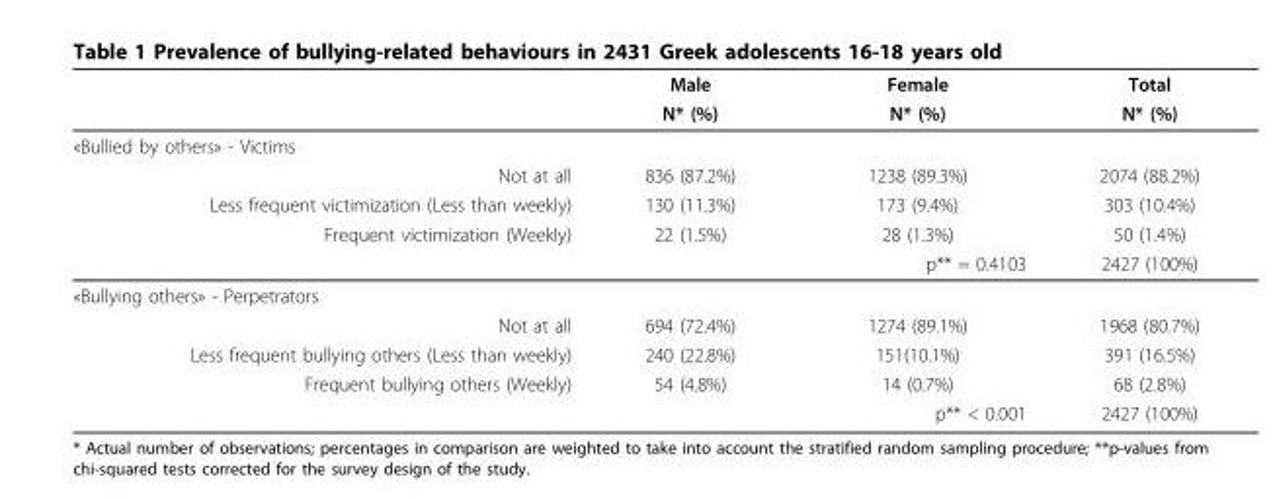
<table><thead><tr><td rowspan="2"></td><td rowspan="2">Male N* (%)</td><td rowspan="2">Female N* (%)</td><td rowspan="2">Total N* (%)</td></tr><tr></tr></thead><tbody><tr><td colspan="4">«Bullied by others» - Victims</td></tr><tr><td>Not at all</td><td>836 (87.2%)</td><td>1238 (89.3%)</td><td>2074 (88.2%)</td></tr><tr><td>Less frequent victimization (Less than weekly)</td><td>130 (11.3%)</td><td>173 (9.4%)</td><td>303 (10.4%)</td></tr><tr><td>Frequent victimization (Weekly)</td><td>22 (1.5%)</td><td>28 (1.3%)</td><td>50 (1.4%)</td></tr><tr><td colspan="3">p** = 0.4103</td><td>2427 (100%)</td></tr><tr><td colspan="4">«Bullying others» - Perpetrators</td></tr><tr><td>Not at all</td><td>694 (72.4%)</td><td>1274 (89.1%)</td><td>1968 (80.7%)</td></tr><tr><td>Less frequent bullying others (Less than weekly)</td><td>240 (22.8%)</td><td>151(10.1%)</td><td>391 (16.5%)</td></tr><tr><td>Frequent bullying others (Weekly)</td><td>54 (4.8%)</td><td>14 (0.7%)</td><td>68 (2.8%)</td></tr><tr><td colspan="3">p** &lt; 0.001</td><td>2427 (100%)</td></tr></tbody></table>